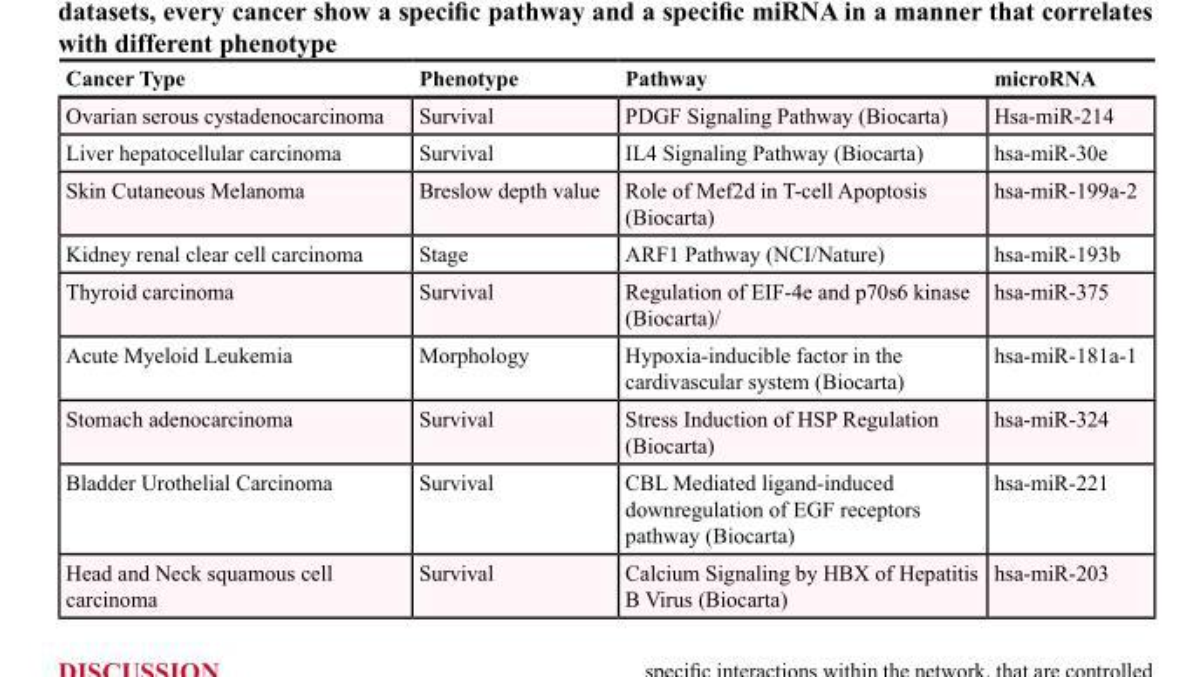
<table><thead><tr><td>Cancer Type</td><td>Phenotype</td><td>Pathway</td><td>microRNA</td></tr></thead><tbody><tr><td>Ovarian serous cystadenocarcinoma</td><td>Survival</td><td>PDGF Signaling Pathway (Biocarta)</td><td>Hsa-miR-214</td></tr><tr><td>Liver hepatocellular carcinoma</td><td>Survival</td><td>IL4 Signaling Pathway (Biocarta)</td><td>hsa-miR-30e</td></tr><tr><td>Skin Cutaneous Melanoma</td><td>Breslow depth value</td><td>Role of Mef2d in T-cell Apoptosis (Biocarta)</td><td>hsa-miR-199a-2</td></tr><tr><td>Kidney renal clear cell carcinoma</td><td>Stage</td><td>ARF1 Pathway (NCI/Nature)</td><td>hsa-miR-193b</td></tr><tr><td>Thyroid carcinoma</td><td>Survival</td><td>Regulation of EIF-4e and p70s6 kinase (Biocarta)/</td><td>hsa-miR-375</td></tr><tr><td>Acute Myeloid Leukemia</td><td>Morphology</td><td>Hypoxia-inducible factor in the cardivascular system (Biocarta)</td><td>hsa-miR-181a-1</td></tr><tr><td>Stomach adenocarcinoma</td><td>Survival</td><td>Stress Induction of HSP Regulation (Biocarta)</td><td>hsa-miR-324</td></tr><tr><td>Bladder Urothelial Carcinoma</td><td>Survival</td><td>CBL Mediated ligand-induced downregulation of EGF receptors pathway (Biocarta)</td><td>hsa-miR-221</td></tr><tr><td>Head and Neck squamous cell carcinoma</td><td>Survival</td><td>Calcium Signaling by HBX of Hepatitis B Virus (Biocarta)</td><td>hsa-miR-203</td></tr></tbody></table>